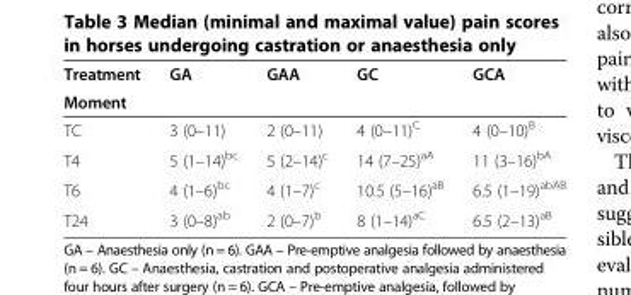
<table><thead><tr><td rowspan="2">Treatment Moment</td><td rowspan="2">GA</td><td rowspan="2">GAA</td><td rowspan="2">GC</td><td rowspan="2">GCA</td></tr><tr></tr></thead><tbody><tr><td>TC</td><td>3 (0–11)</td><td>2 (0–11)</td><td>4 (0–11)<sup>C</sup></td><td>4 (0–10)<sup>B</sup></td></tr><tr><td>T4</td><td>5 (1–14)<sup>bc</sup></td><td>5 (2–14)<sup>c</sup></td><td>14 (7–25)<sup>aA</sup></td><td>11 (3–16)<sup>bA</sup></td></tr><tr><td>T6</td><td>4 (1–6)<sup>bc</sup></td><td>4 (1–7)<sup>c</sup></td><td>10.5 (5–16)<sup>aB</sup></td><td>6.5 (1–19)<sup>abAB</sup></td></tr><tr><td>T24</td><td>3 (0–8)<sup>ab</sup></td><td>2 (0–7)<sup>b</sup></td><td>8 (1–14)<sup>aC</sup></td><td>6.5 (2–13)<sup>aB</sup></td></tr></tbody></table>